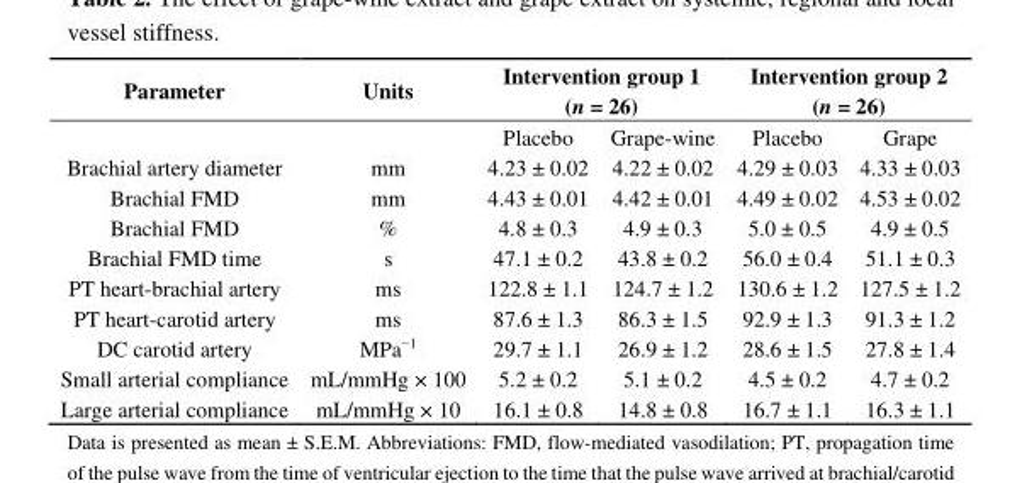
<table><thead><tr><td rowspan="2">Parameter</td><td rowspan="2">Units</td><td colspan="2">Intervention group 1 (n = 26)</td><td colspan="2">Intervention group 2 (n = 26)</td></tr><tr><td>Placebo</td><td>Grape-wine</td><td>Placebo</td><td>Grape</td></tr></thead><tbody><tr><td>Brachial artery diameter</td><td>mm</td><td>4.23 ± 0.02</td><td>4.22 ± 0.02</td><td>4.29 ± 0.03</td><td>4.33 ± 0.03</td></tr><tr><td>Brachial FMD</td><td>mm</td><td>4.43 ± 0.01</td><td>4.42 ± 0.01</td><td>4.49 ± 0.02</td><td>4.53 ± 0.02</td></tr><tr><td>Brachial FMD</td><td>%</td><td>4.8 ± 0.3</td><td>4.9 ± 0.3</td><td>5.0 ± 0.5</td><td>4.9 ± 0.5</td></tr><tr><td>Brachial FMD time</td><td>s</td><td>47.1 ± 0.2</td><td>43.8 ± 0.2</td><td>56.0 ± 0.4</td><td>51.1 ± 0.3</td></tr><tr><td>PT heart-brachial artery</td><td>ms</td><td>122.8 ± 1.1</td><td>124.7 ± 1.2</td><td>130.6 ± 1.2</td><td>127.5 ± 1.2</td></tr><tr><td>PT heart-carotid artery</td><td>ms</td><td>87.6 ± 1.3</td><td>86.3 ± 1.5</td><td>92.9 ± 1.3</td><td>91.3 ± 1.2</td></tr><tr><td>DC carotid artery</td><td>MPa<sup>−1</sup></td><td>29.7 ± 1.1</td><td>26.9 ± 1.2</td><td>28.6 ± 1.5</td><td>27.8 ± 1.4</td></tr><tr><td>Small arterial compliance</td><td>mL/mmHg × 100</td><td>5.2 ± 0.2</td><td>5.1 ± 0.2</td><td>4.5 ± 0.2</td><td>4.7 ± 0.2</td></tr><tr><td>Large arterial compliance</td><td>mL/mmHg × 10</td><td>16.1 ± 0.8</td><td>14.8 ± 0.8</td><td>16.7 ± 1.1</td><td>16.3 ± 1.1</td></tr></tbody></table>